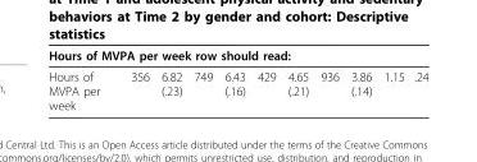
<table><thead><tr><td colspan="11">Hours of MVPA per week row should read:</td></tr><tr><td>Hours of MVPA per week</td><td>356</td><td>6.82 (.23)</td><td>749</td><td>6.43 (.16)</td><td>429</td><td>4.65 (.21)</td><td>936</td><td>3.86 (.14)</td><td>1.15</td><td>.24</td></tr></thead><tbody></tbody></table>